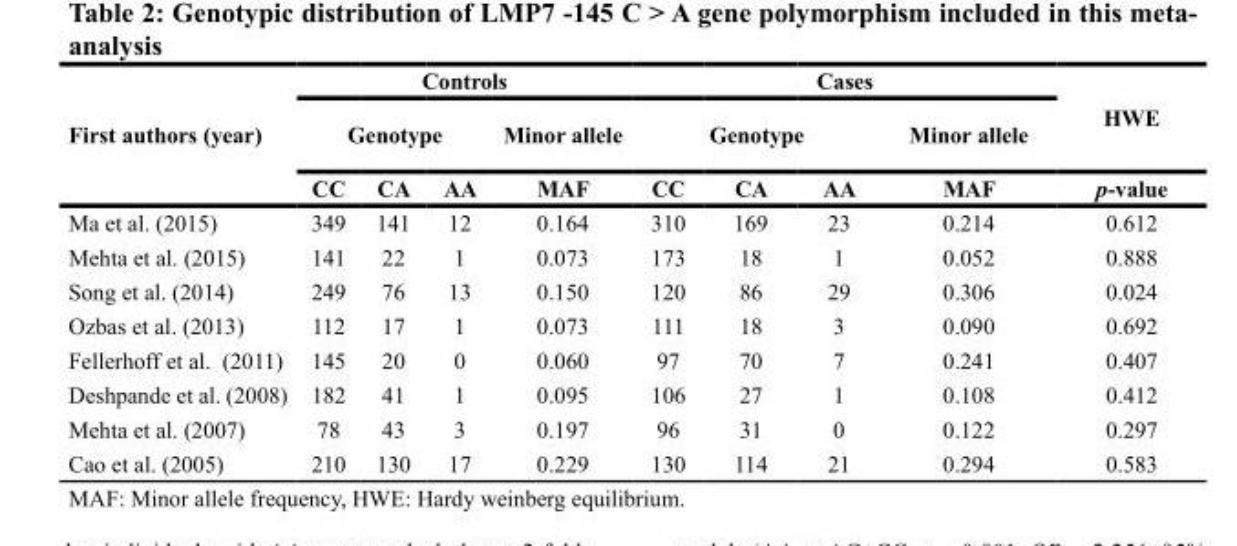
<table><thead><tr><td rowspan="3">First authors (year)</td><td colspan="4">Controls</td><td colspan="4">Cases</td><td rowspan="3">HWE p-value</td></tr><tr><td colspan="3">Genotype</td><td rowspan="2">Minor allele MAF</td><td colspan="3">Genotype</td><td rowspan="2">Minor allele MAF</td></tr><tr><td>CC</td><td>CA</td><td>AA</td><td>CC</td><td>CA</td><td>AA</td></tr></thead><tbody><tr><td>Ma et al. (2015)</td><td>349</td><td>141</td><td>12</td><td>0.164</td><td>310</td><td>169</td><td>23</td><td>0.214</td><td>0.612</td></tr><tr><td>Mehta et al. (2015)</td><td>141</td><td>22</td><td>1</td><td>0.073</td><td>173</td><td>18</td><td>1</td><td>0.052</td><td>0.888</td></tr><tr><td>Song et al. (2014)</td><td>249</td><td>76</td><td>13</td><td>0.150</td><td>120</td><td>86</td><td>29</td><td>0.306</td><td>0.024</td></tr><tr><td>Ozbas et al. (2013)</td><td>112</td><td>17</td><td>1</td><td>0.073</td><td>111</td><td>18</td><td>3</td><td>0.090</td><td>0.692</td></tr><tr><td>Fellerhoff et al. (2011)</td><td>145</td><td>20</td><td>0</td><td>0.060</td><td>97</td><td>70</td><td>7</td><td>0.241</td><td>0.407</td></tr><tr><td>Deshpande et al. (2008)</td><td>182</td><td>41</td><td>1</td><td>0.095</td><td>106</td><td>27</td><td>1</td><td>0.108</td><td>0.412</td></tr><tr><td>Mehta et al. (2007)</td><td>78</td><td>43</td><td>3</td><td>0.197</td><td>96</td><td>31</td><td>0</td><td>0.122</td><td>0.297</td></tr><tr><td>Cao et al. (2005)</td><td>210</td><td>130</td><td>17</td><td>0.229</td><td>130</td><td>114</td><td>21</td><td>0.294</td><td>0.583</td></tr></tbody></table>